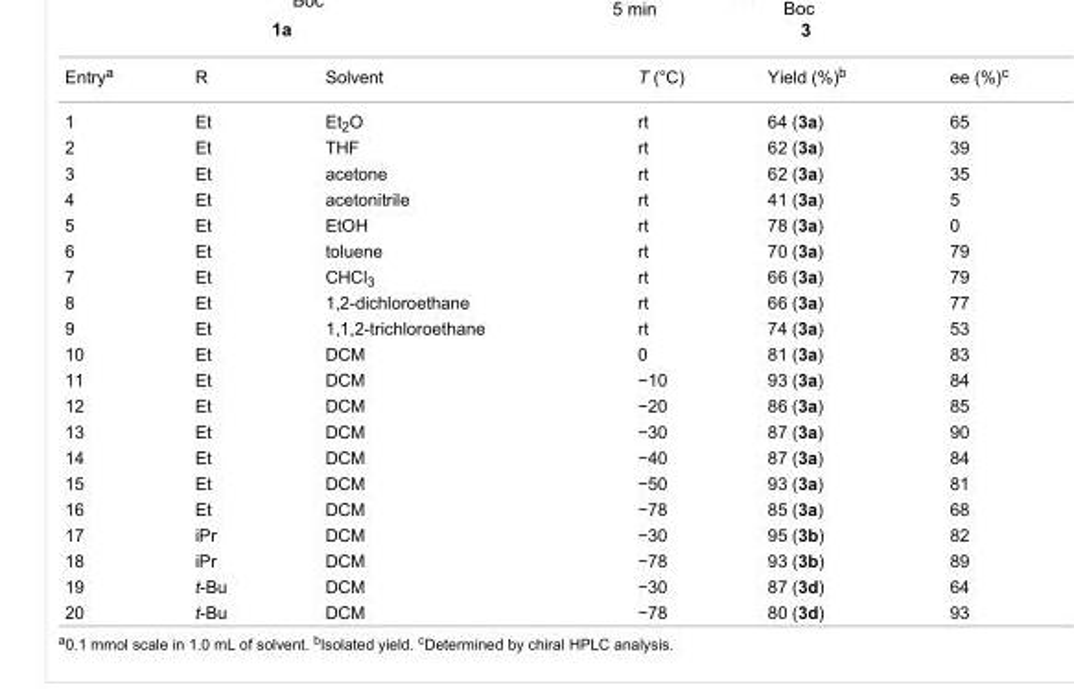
<table><tbody><tr><td>Entry<sup>a</sup></td><td>R</td><td>Solvent</td><td>T (°C)</td><td>Yield (%)<sup>b</sup></td><td>ee (%)<sup>c</sup></td></tr><tr><td>1</td><td>Et</td><td>Et<sub>2</sub>O</td><td>rt</td><td>64 (3a)</td><td>65</td></tr><tr><td>2</td><td>Et</td><td>THF</td><td>rt</td><td>62 (3a)</td><td>39</td></tr><tr><td>3</td><td>Et</td><td>acetone</td><td>rt</td><td>62 (3a)</td><td>35</td></tr><tr><td>4</td><td>Et</td><td>acetonitrile</td><td>rt</td><td>41 (3a)</td><td>5</td></tr><tr><td>5</td><td>Et</td><td>EtOH</td><td>rt</td><td>78 (3a)</td><td>0</td></tr><tr><td>6</td><td>Et</td><td>toluene</td><td>rt</td><td>70 (3a)</td><td>79</td></tr><tr><td>7</td><td>Et</td><td>CHCl<sub>3</sub></td><td>rt</td><td>66 (3a)</td><td>79</td></tr><tr><td>8</td><td>Et</td><td>1,2-dichloroethane</td><td>rt</td><td>66 (3a)</td><td>77</td></tr><tr><td>9</td><td>Et</td><td>1,1,2-trichloroethane</td><td>rt</td><td>74 (3a)</td><td>53</td></tr><tr><td>10</td><td>Et</td><td>DCM</td><td>0</td><td>81 (3a)</td><td>83</td></tr><tr><td>11</td><td>Et</td><td>DCM</td><td>−10</td><td>93 (3a)</td><td>84</td></tr><tr><td>12</td><td>Et</td><td>DCM</td><td>−20</td><td>86 (3a)</td><td>85</td></tr><tr><td>13</td><td>Et</td><td>DCM</td><td>−30</td><td>87 (3a)</td><td>90</td></tr><tr><td>14</td><td>Et</td><td>DCM</td><td>−40</td><td>87 (3a)</td><td>84</td></tr><tr><td>15</td><td>Et</td><td>DCM</td><td>−50</td><td>93 (3a)</td><td>81</td></tr><tr><td>16</td><td>Et</td><td>DCM</td><td>−78</td><td>85 (3a)</td><td>68</td></tr><tr><td>17</td><td>iPr</td><td>DCM</td><td>−30</td><td>95 (3b)</td><td>82</td></tr><tr><td>18</td><td>iPr</td><td>DCM</td><td>−78</td><td>93 (3b)</td><td>89</td></tr><tr><td>19</td><td>t-Bu</td><td>DCM</td><td>−30</td><td>87 (3d)</td><td>64</td></tr><tr><td>20</td><td>t-Bu</td><td>DCM</td><td>−78</td><td>80 (3d)</td><td>93</td></tr></tbody></table>